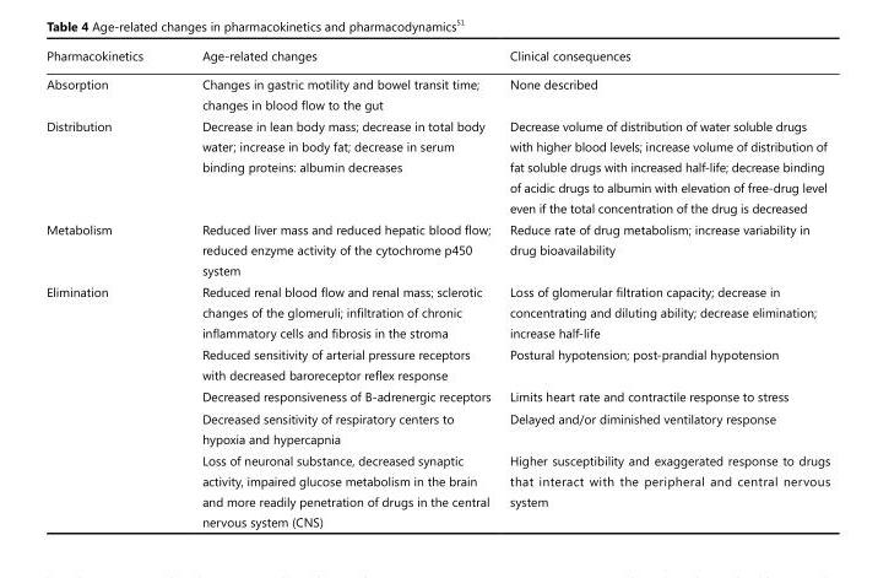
<table><thead><tr><td>Pharmacokinetics</td><td>Age-related changes</td><td>Clinical consequences</td></tr></thead><tbody><tr><td>Absorption</td><td>Changes in gastric motility and bowel transit time; changes in blood flow to the gut</td><td>None described</td></tr><tr><td>Distribution</td><td>Decrease in lean body mass; decrease in total body water; increase in body fat; decrease in serum binding proteins: albumin decreases</td><td>Decrease volume of distribution of water soluble drugs with higher blood levels; increase volume of distribution of fat soluble drugs with increased half-life; decrease binding of acidic drugs to albumin with elevation of free-drug level even if the total concentration of the drug is decreased</td></tr><tr><td>Metabolism</td><td>Reduced liver mass and reduced hepatic blood flow; reduced enzyme activity of the cytochrome p450 system</td><td>Reduce rate of drug metabolism; increase variability in drug bioavailability</td></tr><tr><td rowspan="5">Elimination</td><td>Reduced renal blood flow and renal mass; sclerotic changes of the glomeruli; infiltration of chronic inflammatory cells and fibrosis in the stroma</td><td>Loss of glomerular filtration capacity; decrease in concentrating and diluting ability; decrease elimination; increase half-life</td></tr><tr><td>Reduced sensitivity of arterial pressure receptors with decreased baroreceptor reflex response</td><td>Postural hypotension; post-prandial hypotension</td></tr><tr><td>Decreased responsiveness of B-adrenergic receptors</td><td>Limits heart rate and contractile response to stress</td></tr><tr><td>Decreased sensitivity of respiratory centers to hypoxia and hypercapnia</td><td>Delayed and/or diminished ventilatory response</td></tr><tr><td>Loss of neuronal substance, decreased synaptic activity, impaired glucose metabolism in the brain and more readily penetration of drugs in the central nervous system (CNS)</td><td>Higher susceptibility and exaggerated response to drugs that interact with the peripheral and central nervous system</td></tr></tbody></table>